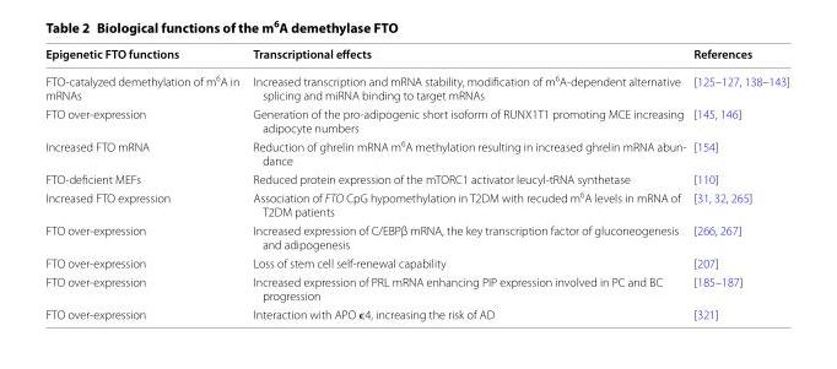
<table><thead><tr><td>Epigenetic FTO functions</td><td>Transcriptional effects</td><td>References</td></tr></thead><tbody><tr><td>FTO-catalyzed demethylation of m<sup>6</sup>A in mRNAs</td><td>Increased transcription and mRNA stability, modification of m<sup>6</sup>A-dependent alternative splicing and miRNA binding to target mRNAs</td><td>[125–127, 138–143]</td></tr><tr><td>FTO over-expression</td><td>Generation of the pro-adipogenic short isoform of RUNX1T1 promoting MCE increasing adipocyte numbers</td><td>[145, 146]</td></tr><tr><td>Increased FTO mRNA</td><td>Reduction of ghrelin mRNA m6A methylation resulting in increased ghrelin mRNA abun- dance</td><td>[154]</td></tr><tr><td>FTO-deficient MEFs</td><td>Reduced protein expression of the mTORC1 activator leucyl-tRNA synthetase</td><td>[110]</td></tr><tr><td>Increased FTO expression</td><td>Association of FTO CpG hypomethylation in T2DM with recuded m<sup>6</sup>A levels in mRNA of T2DM patients</td><td>[31, 32, 265]</td></tr><tr><td>FTO over-expression</td><td>Increased expression of C/EBPβ mRNA, the key transcription factor of gluconeogenesis and adipogenesis</td><td>[266, 267]</td></tr><tr><td>FTO over-expression</td><td>Loss of stem cell self-renewal capability</td><td>[207]</td></tr><tr><td>FTO over-expression</td><td>Increased expression of PRL mRNA enhancing PIP expression involved in PC and BC progression</td><td>[185–187]</td></tr><tr><td>FTO over-expression</td><td>Interaction with APO ϵ4, increasing the risk of AD</td><td>[321]</td></tr></tbody></table>